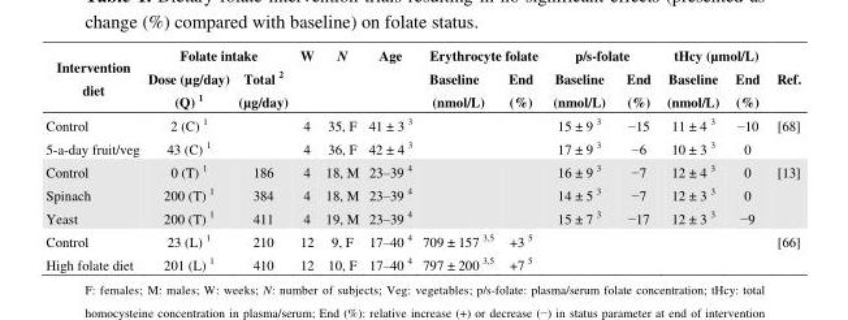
<table><thead><tr><td rowspan="2">Intervention diet</td><td colspan="2">Folate intake</td><td rowspan="2">W</td><td rowspan="2">N</td><td rowspan="2">Age</td><td colspan="2">Erythrocyte folate</td><td colspan="2">p/s-folate</td><td colspan="2">tHcy (µmol/L)</td><td rowspan="2">Ref.</td></tr><tr><td>Dose (µg/day) (Q) <sup>1</sup></td><td>Total <sup>2</sup> (µg/day)</td><td>Baseline (nmol/L)</td><td>End (%)</td><td>Baseline (nmol/L)</td><td>End (%)</td><td>Baseline (nmol/L)</td><td>End (%)</td></tr></thead><tbody><tr><td>Control</td><td>2 (C) <sup>1</sup></td><td></td><td>4</td><td>35, F</td><td>41 ± 3 <sup>3</sup></td><td></td><td></td><td>15 ± 9 <sup>3</sup></td><td>−15</td><td>11 ± 4 <sup>3</sup></td><td>−10</td><td>[68]</td></tr><tr><td>5-a-day fruit/veg</td><td>43 (C) <sup>1</sup></td><td></td><td>4</td><td>36, F</td><td>42 ± 4 <sup>3</sup></td><td></td><td></td><td>17 ± 9 <sup>3</sup></td><td>−6</td><td>10 ± 3 <sup>3</sup></td><td>0</td><td></td></tr><tr><td>Control</td><td>0 (T) <sup>1</sup></td><td>186</td><td>4</td><td>18, M</td><td>23–39 <sup>4</sup></td><td></td><td></td><td>16 ± 9 <sup>3</sup></td><td>−7</td><td>12 ± 4 <sup>3</sup></td><td>0</td><td>[13]</td></tr><tr><td>Spinach</td><td>200 (T) <sup>1</sup></td><td>384</td><td>4</td><td>18, M</td><td>23–39 <sup>4</sup></td><td></td><td></td><td>14 ± 5 <sup>3</sup></td><td>−7</td><td>12 ± 3 <sup>3</sup></td><td>0</td><td></td></tr><tr><td>Yeast</td><td>200 (T) <sup>1</sup></td><td>411</td><td>4</td><td>19, M</td><td>23–39 <sup>4</sup></td><td></td><td></td><td>15 ± 7 <sup>3</sup></td><td>−17</td><td>12 ± 3 <sup>3</sup></td><td>−9</td><td></td></tr><tr><td>Control</td><td>23 (L) <sup>1</sup></td><td>210</td><td>12</td><td>9, F</td><td>17–40 <sup>4</sup></td><td>709 ± 157 <sup>3,5</sup></td><td>+3 <sup>5</sup></td><td></td><td></td><td></td><td></td><td>[66]</td></tr><tr><td>High folate diet</td><td>201 (L) <sup>1</sup></td><td>410</td><td>12</td><td>10, F</td><td>17–40 <sup>4</sup></td><td>797 ± 200 <sup>3,5</sup></td><td>+7 <sup>5</sup></td><td></td><td></td><td></td><td></td><td></td></tr></tbody></table>